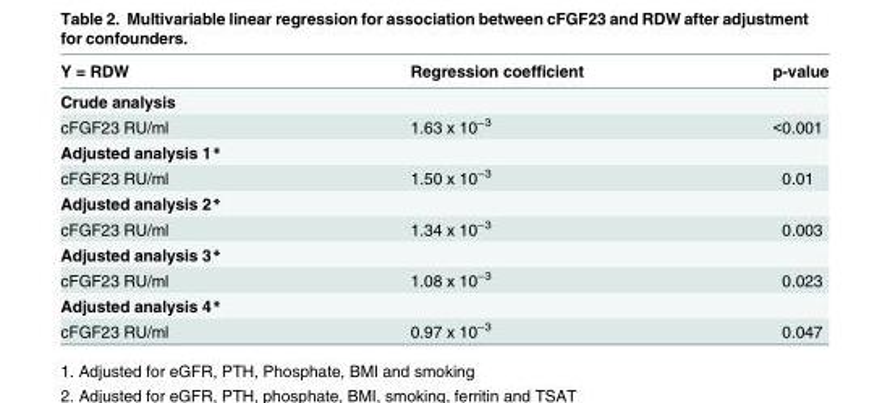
<table><thead><tr><td>Y = RDW</td><td>Regression coefficient</td><td>p-value</td></tr></thead><tbody><tr><td colspan="3">Crude analysis</td></tr><tr><td>cFGF23 RU/ml</td><td>1.63 x 10<sup>−3</sup></td><td>&lt;0.001</td></tr><tr><td colspan="3">Adjusted analysis 1*</td></tr><tr><td>cFGF23 RU/ml</td><td>1.50 x 10<sup>−3</sup></td><td>0.01</td></tr><tr><td colspan="3">Adjusted analysis 2*</td></tr><tr><td>cFGF23 RU/ml</td><td>1.34 x 10<sup>−3</sup></td><td>0.003</td></tr><tr><td colspan="3">Adjusted analysis 3*</td></tr><tr><td>cFGF23 RU/ml</td><td>1.08 x 10<sup>−3</sup></td><td>0.023</td></tr><tr><td colspan="3">Adjusted analysis 4*</td></tr><tr><td>cFGF23 RU/ml</td><td>0.97 x 10<sup>−3</sup></td><td>0.047</td></tr></tbody></table>